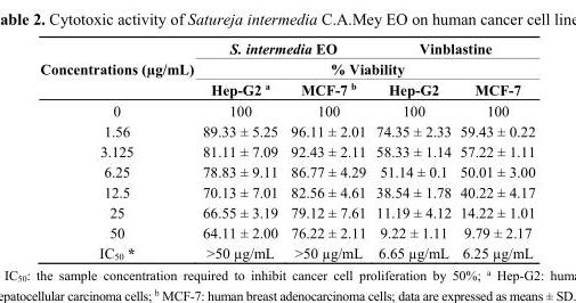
<table><thead><tr><td rowspan="3">Concentrations (µg/mL)</td><td colspan="2">S. intermedia EO</td><td colspan="2">Vinblastine</td></tr><tr><td colspan="4">% Viability</td></tr><tr><td>Hep-G2 <sup>a</sup></td><td>MCF-7 <sup>b</sup></td><td>Hep-G2</td><td>MCF-7</td></tr></thead><tbody><tr><td>0</td><td>100</td><td>100</td><td>100</td><td>100</td></tr><tr><td>1.56</td><td>89.33 ± 5.25</td><td>96.11 ± 2.01</td><td>74.35 ± 2.33</td><td>59.43 ± 0.22</td></tr><tr><td>3.125</td><td>81.11 ± 7.09</td><td>92.43 ± 2.11</td><td>58.33 ± 1.14</td><td>57.22 ± 1.11</td></tr><tr><td>6.25</td><td>78.83 ± 9.11</td><td>86.77 ± 4.29</td><td>51.14 ± 0.1</td><td>50.01 ± 3.00</td></tr><tr><td>12.5</td><td>70.13 ± 7.01</td><td>82.56 ± 4.61</td><td>38.54 ± 1.78</td><td>40.22 ± 4.17</td></tr><tr><td>25</td><td>66.55 ± 3.19</td><td>79.12 ± 7.61</td><td>11.19 ± 4.12</td><td>14.22 ± 1.01</td></tr><tr><td>50</td><td>64.11 ± 2.00</td><td>76.22 ± 2.11</td><td>9.22 ± 1.11</td><td>9.79 ± 2.17</td></tr><tr><td>IC<sub>50</sub> *</td><td>&gt;50 µg/mL</td><td>&gt;50 µg/mL</td><td>6.65 µg/mL</td><td>6.25 µg/mL</td></tr></tbody></table>